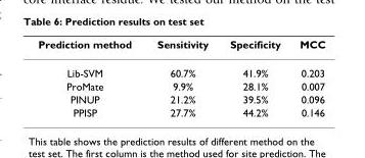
<table><thead><tr><td>Prediction method</td><td>Sensitivity</td><td>Specificity</td><td>MCC</td></tr></thead><tbody><tr><td>Lib-SVM</td><td>60.7%</td><td>41.9%</td><td>0.203</td></tr><tr><td>ProMate</td><td>9.9%</td><td>28.1%</td><td>0.007</td></tr><tr><td>PINUP</td><td>21.2%</td><td>39.5%</td><td>0.096</td></tr><tr><td>PPISP</td><td>27.7%</td><td>44.2%</td><td>0.146</td></tr></tbody></table>